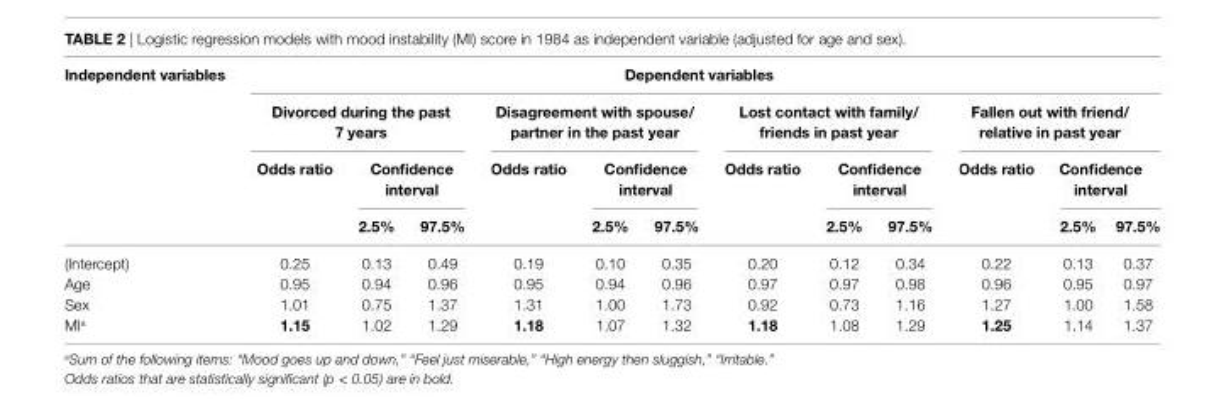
<table><thead><tr><td rowspan="4">independent variables</td><td colspan="12">Dependent variables</td></tr><tr><td colspan="3">Divorced during the past 7 years</td><td colspan="3">Disagreement with spouse/ partner in the past year</td><td colspan="3">lost contact with family/ friends in past year</td><td colspan="3">Fallen out with friend/ relative in past year</td></tr><tr><td rowspan="2">Odds ratio</td><td colspan="2">confidence interval</td><td rowspan="2">Odds ratio</td><td colspan="2">confidence interval</td><td rowspan="2">Odds ratio</td><td colspan="2">confidence interval</td><td rowspan="2">Odds ratio</td><td colspan="2">confidence interval</td></tr><tr><td>2.5%</td><td>97.5%</td><td>2.5%</td><td>97.5%</td><td>2.5%</td><td>97.5%</td><td>2.5%</td><td>97.5%</td></tr></thead><tbody><tr><td>(Intercept)</td><td>0.25</td><td>0.13</td><td>0.49</td><td>0.19</td><td>0.10</td><td>0.35</td><td>0.20</td><td>0.12</td><td>0.34</td><td>0.22</td><td>0.13</td><td>0.37</td></tr><tr><td>Age</td><td>0.95</td><td>0.94</td><td>0.96</td><td>0.95</td><td>0.94</td><td>0.96</td><td>0.97</td><td>0.97</td><td>0.98</td><td>0.96</td><td>0.95</td><td>0.97</td></tr><tr><td>Sex</td><td>1.01</td><td>0.75</td><td>1.37</td><td>1.31</td><td>1.00</td><td>1.73</td><td>0.92</td><td>0.73</td><td>1.16</td><td>1.27</td><td>1.00</td><td>1.58</td></tr><tr><td>MI<sup>a</sup></td><td>1.15</td><td>1.02</td><td>1.29</td><td>1.18</td><td>1.07</td><td>1.32</td><td>1.18</td><td>1.08</td><td>1.29</td><td>1.25</td><td>1.14</td><td>1.37</td></tr></tbody></table>